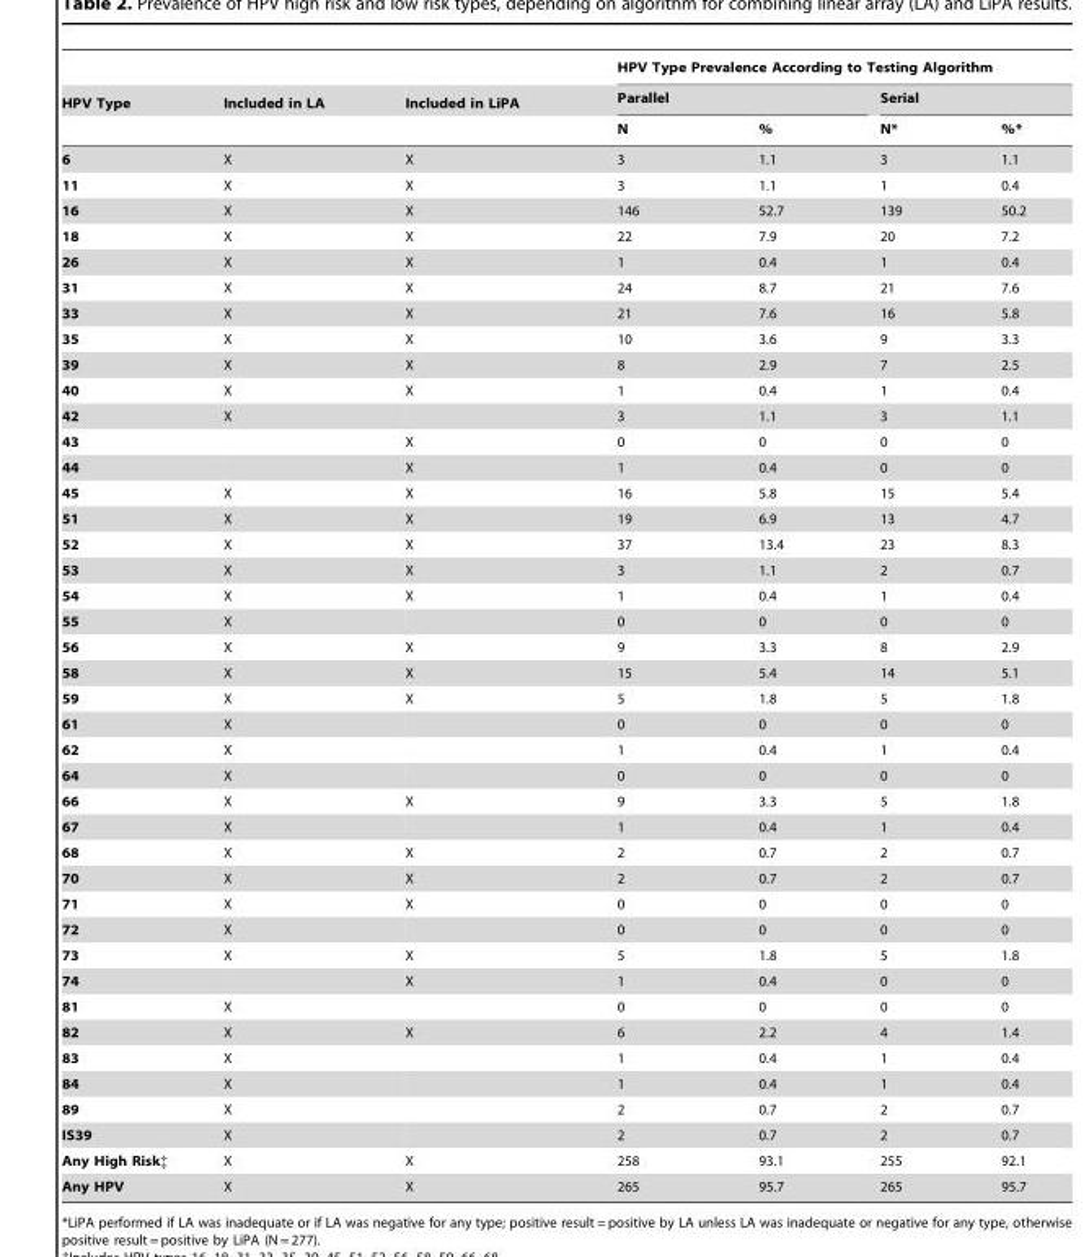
<table><thead><tr><td rowspan="3">HPV Type</td><td rowspan="3">Included in LA</td><td rowspan="3">Included in LiPA</td><td colspan="4">HPV Type Prevalence According to Testing Algorithm</td></tr><tr><td colspan="2">Parallel</td><td colspan="2">Serial</td></tr><tr><td>N</td><td>%</td><td>N*</td><td>%*</td></tr></thead><tbody><tr><td>6</td><td>X</td><td>X</td><td>3</td><td>1.1</td><td>3</td><td>1.1</td></tr><tr><td>11</td><td>X</td><td>X</td><td>3</td><td>1.1</td><td>1</td><td>0.4</td></tr><tr><td>16</td><td>X</td><td>X</td><td>146</td><td>52.7</td><td>139</td><td>50.2</td></tr><tr><td>18</td><td>X</td><td>X</td><td>22</td><td>7.9</td><td>20</td><td>7.2</td></tr><tr><td>26</td><td>X</td><td>X</td><td>1</td><td>0.4</td><td>1</td><td>0.4</td></tr><tr><td>31</td><td>X</td><td>X</td><td>24</td><td>8.7</td><td>21</td><td>7.6</td></tr><tr><td>33</td><td>X</td><td>X</td><td>21</td><td>7.6</td><td>16</td><td>5.8</td></tr><tr><td>35</td><td>X</td><td>X</td><td>10</td><td>3.6</td><td>9</td><td>3.3</td></tr><tr><td>39</td><td>X</td><td>X</td><td>8</td><td>2.9</td><td>7</td><td>2.5</td></tr><tr><td>40</td><td>X</td><td>X</td><td>1</td><td>0.4</td><td>1</td><td>0.4</td></tr><tr><td>42</td><td>X</td><td></td><td>3</td><td>1.1</td><td>3</td><td>1.1</td></tr><tr><td>43</td><td></td><td>X</td><td>0</td><td>0</td><td>0</td><td>0</td></tr><tr><td>44</td><td></td><td>X</td><td>1</td><td>0.4</td><td>0</td><td>0</td></tr><tr><td>45</td><td>X</td><td>X</td><td>16</td><td>5.8</td><td>15</td><td>5.4</td></tr><tr><td>51</td><td>X</td><td>X</td><td>19</td><td>6.9</td><td>13</td><td>4.7</td></tr><tr><td>52</td><td>X</td><td>X</td><td>37</td><td>13.4</td><td>23</td><td>8.3</td></tr><tr><td>53</td><td>X</td><td>X</td><td>3</td><td>1.1</td><td>2</td><td>0.7</td></tr><tr><td>54</td><td>X</td><td>X</td><td>1</td><td>0.4</td><td>1</td><td>0.4</td></tr><tr><td>55</td><td>X</td><td></td><td>0</td><td>0</td><td>0</td><td>0</td></tr><tr><td>56</td><td>X</td><td>X</td><td>9</td><td>3.3</td><td>8</td><td>2.9</td></tr><tr><td>58</td><td>X</td><td>X</td><td>15</td><td>5.4</td><td>14</td><td>5.1</td></tr><tr><td>59</td><td>X</td><td>X</td><td>5</td><td>1.8</td><td>5</td><td>1.8</td></tr><tr><td>61</td><td>X</td><td></td><td>0</td><td>0</td><td>0</td><td>0</td></tr><tr><td>62</td><td>X</td><td></td><td>1</td><td>0.4</td><td>1</td><td>0.4</td></tr><tr><td>64</td><td>X</td><td></td><td>0</td><td>0</td><td>0</td><td>0</td></tr><tr><td>66</td><td>X</td><td>X</td><td>9</td><td>3.3</td><td>5</td><td>1.8</td></tr><tr><td>67</td><td>X</td><td></td><td>1</td><td>0.4</td><td>1</td><td>0.4</td></tr><tr><td>68</td><td>X</td><td>X</td><td>2</td><td>0.7</td><td>2</td><td>0.7</td></tr><tr><td>70</td><td>X</td><td>X</td><td>2</td><td>0.7</td><td>2</td><td>0.7</td></tr><tr><td>71</td><td>X</td><td>X</td><td>0</td><td>0</td><td>0</td><td>0</td></tr><tr><td>72</td><td>X</td><td></td><td>0</td><td>0</td><td>0</td><td>0</td></tr><tr><td>73</td><td>X</td><td>X</td><td>5</td><td>1.8</td><td>5</td><td>1.8</td></tr><tr><td>74</td><td></td><td>X</td><td>1</td><td>0.4</td><td>0</td><td>0</td></tr><tr><td>81</td><td>X</td><td></td><td>0</td><td>0</td><td>0</td><td>0</td></tr><tr><td>82</td><td>X</td><td>X</td><td>6</td><td>2.2</td><td>4</td><td>1.4</td></tr><tr><td>83</td><td>X</td><td></td><td>1</td><td>0.4</td><td>1</td><td>0.4</td></tr><tr><td>84</td><td>X</td><td></td><td>1</td><td>0.4</td><td>1</td><td>0.4</td></tr><tr><td>89</td><td>X</td><td></td><td>2</td><td>0.7</td><td>2</td><td>0.7</td></tr><tr><td>IS39</td><td>X</td><td></td><td>2</td><td>0.7</td><td>2</td><td>0.7</td></tr><tr><td>Any High Risk‡</td><td>X</td><td>X</td><td>258</td><td>93.1</td><td>255</td><td>92.1</td></tr><tr><td>Any HPV</td><td>X</td><td>X</td><td>265</td><td>95.7</td><td>265</td><td>95.7</td></tr></tbody></table>